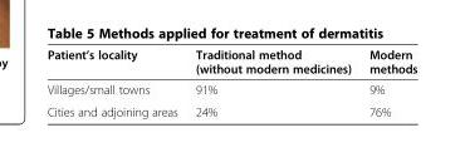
<table><thead><tr><td>Patient’s locality</td><td>Traditional method (without modern medicines)</td><td>Modern methods</td></tr></thead><tbody><tr><td>Villages/small towns</td><td>91%</td><td>9%</td></tr><tr><td>Cities and adjoining areas</td><td>24%</td><td>76%</td></tr></tbody></table>